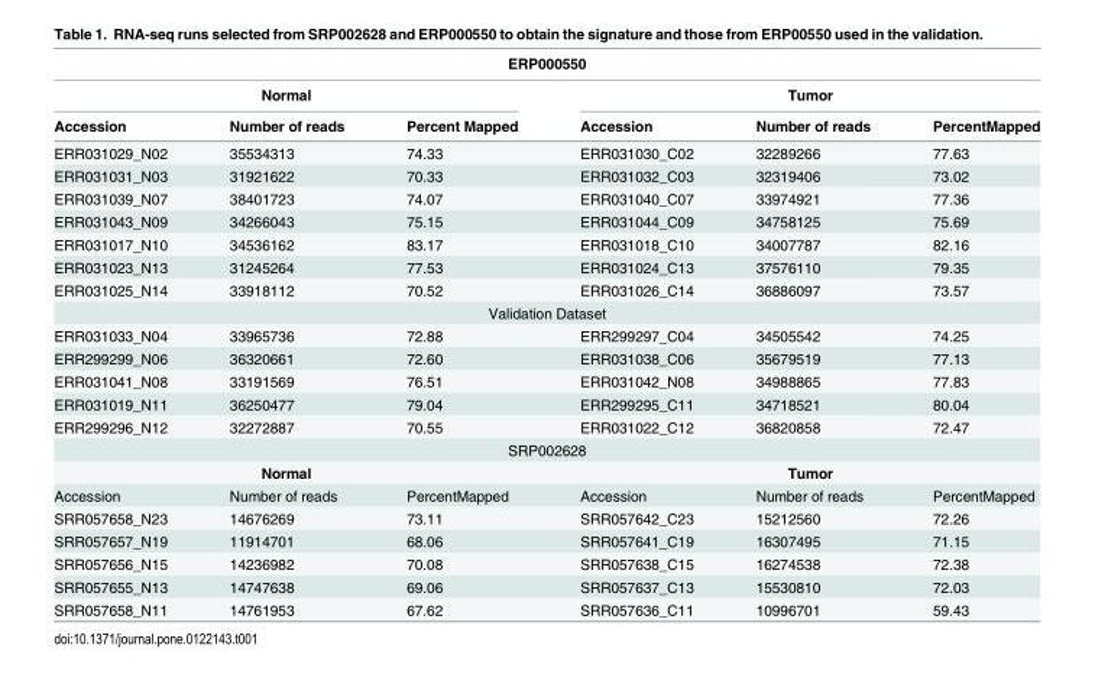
<table><thead><tr><td colspan="6">ERP000550</td></tr><tr><td colspan="3">Normal</td><td colspan="3">Tumor</td></tr><tr><td>Accession</td><td>Number of reads</td><td>Percent Mapped</td><td>Accession</td><td>Number of reads</td><td>PercentMapped</td></tr></thead><tbody><tr><td>ERR031029_N02</td><td>35534313</td><td>74.33</td><td>ERR031030_C02</td><td>32289266</td><td>77.63</td></tr><tr><td>ERR031031_N03</td><td>31921622</td><td>70.33</td><td>ERR031032_C03</td><td>32319406</td><td>73.02</td></tr><tr><td>ERR031039_N07</td><td>38401723</td><td>74.07</td><td>ERR031040_C07</td><td>33974921</td><td>77.36</td></tr><tr><td>ERR031043_N09</td><td>34266043</td><td>75.15</td><td>ERR031044_C09</td><td>34758125</td><td>75.69</td></tr><tr><td>ERR031017_N10</td><td>34536162</td><td>83.17</td><td>ERR031018_C10</td><td>34007787</td><td>82.16</td></tr><tr><td>ERR031023_N13</td><td>31245264</td><td>77.53</td><td>ERR031024_C13</td><td>37576110</td><td>79.35</td></tr><tr><td>ERR031025_N14</td><td>33918112</td><td>70.52</td><td>ERR031026_C14</td><td>36886097</td><td>73.57</td></tr><tr><td colspan="6">Validation Dataset</td></tr><tr><td>ERR031033_N04</td><td>33965736</td><td>72.88</td><td>ERR299297_C04</td><td>34505542</td><td>74.25</td></tr><tr><td>ERR299299_N06</td><td>36320661</td><td>72.60</td><td>ERR031038_C06</td><td>35679519</td><td>77.13</td></tr><tr><td>ERR031041_N08</td><td>33191569</td><td>76.51</td><td>ERR031042_N08</td><td>34988865</td><td>77.83</td></tr><tr><td>ERR031019_N11</td><td>36250477</td><td>79.04</td><td>ERR299295_C11</td><td>34718521</td><td>80.04</td></tr><tr><td>ERR299296_N12</td><td>32272887</td><td>70.55</td><td>ERR031022_C12</td><td>36820858</td><td>72.47</td></tr><tr><td colspan="6">SRP002628</td></tr><tr><td colspan="3">Normal</td><td colspan="3">Tumor</td></tr><tr><td>Accession</td><td>Number of reads</td><td>PercentMapped</td><td>Accession</td><td>Number of reads</td><td>PercentMapped</td></tr><tr><td>SRR057658_N23</td><td>14676269</td><td>73.11</td><td>SRR057642_C23</td><td>15212560</td><td>72.26</td></tr><tr><td>SRR057657_N19</td><td>11914701</td><td>68.06</td><td>SRR057641_C19</td><td>16307495</td><td>71.15</td></tr><tr><td>SRR057656_N15</td><td>14236982</td><td>70.08</td><td>SRR057638_C15</td><td>16274538</td><td>72.38</td></tr><tr><td>SRR057655_N13</td><td>14747638</td><td>69.06</td><td>SRR057637_C13</td><td>15530810</td><td>72.03</td></tr><tr><td>SRR057658_N11</td><td>14761953</td><td>67.62</td><td>SRR057636_C11</td><td>10996701</td><td>59.43</td></tr></tbody></table>